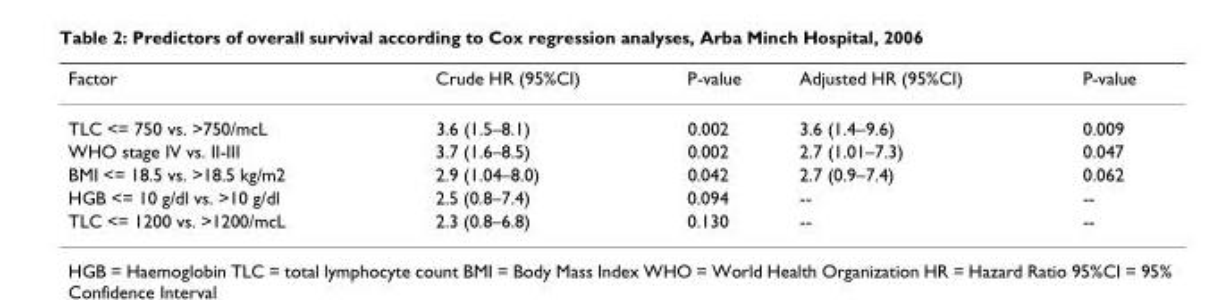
<table><thead><tr><td>Factor</td><td>Crude HR (95%CI)</td><td>P-value</td><td>Adjusted HR (95%CI)</td><td>P-value</td></tr></thead><tbody><tr><td>TLC &lt;= 750 vs. &gt;750/mcL</td><td>3.6 (1.5–8.1)</td><td>0.002</td><td>3.6 (1.4–9.6)</td><td>0.009</td></tr><tr><td>WHO stage IV vs. II-III</td><td>3.7 (1.6–8.5)</td><td>0.002</td><td>2.7 (1.01–7.3)</td><td>0.047</td></tr><tr><td>BMI &lt;= 18.5 vs. &gt;18.5 kg/m2</td><td>2.9 (1.04–8.0)</td><td>0.042</td><td>2.7 (0.9–7.4)</td><td>0.062</td></tr><tr><td>HGB &lt;= 10 g/dl vs. &gt;10 g/dl</td><td>2.5 (0.8–7.4)</td><td>0.094</td><td>--</td><td>--</td></tr><tr><td>TLC &lt;= 1200 vs. &gt;1200/mcL</td><td>2.3 (0.8–6.8)</td><td>0.130</td><td>--</td><td>--</td></tr></tbody></table>